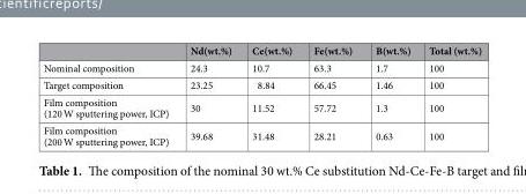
<table><thead><tr><td></td><td>Nd(wt.%)</td><td>Ce(wt.%)</td><td>Fe(wt.%)</td><td>B(wt.%)</td><td>Total (wt.%)</td></tr></thead><tbody><tr><td>Nominal composition</td><td>24.3</td><td>10.7</td><td>63.3</td><td>1.7</td><td>100</td></tr><tr><td>Target composition</td><td>23.25</td><td>8.84</td><td>66.45</td><td>1.46</td><td>100</td></tr><tr><td>Film composition (120 W sputtering power, ICP)</td><td>30</td><td>11.52</td><td>57.72</td><td>1.3</td><td>100</td></tr><tr><td>Film composition (200 W sputtering power, ICP)</td><td>39.68</td><td>31.48</td><td>28.21</td><td>0.63</td><td>100</td></tr></tbody></table>